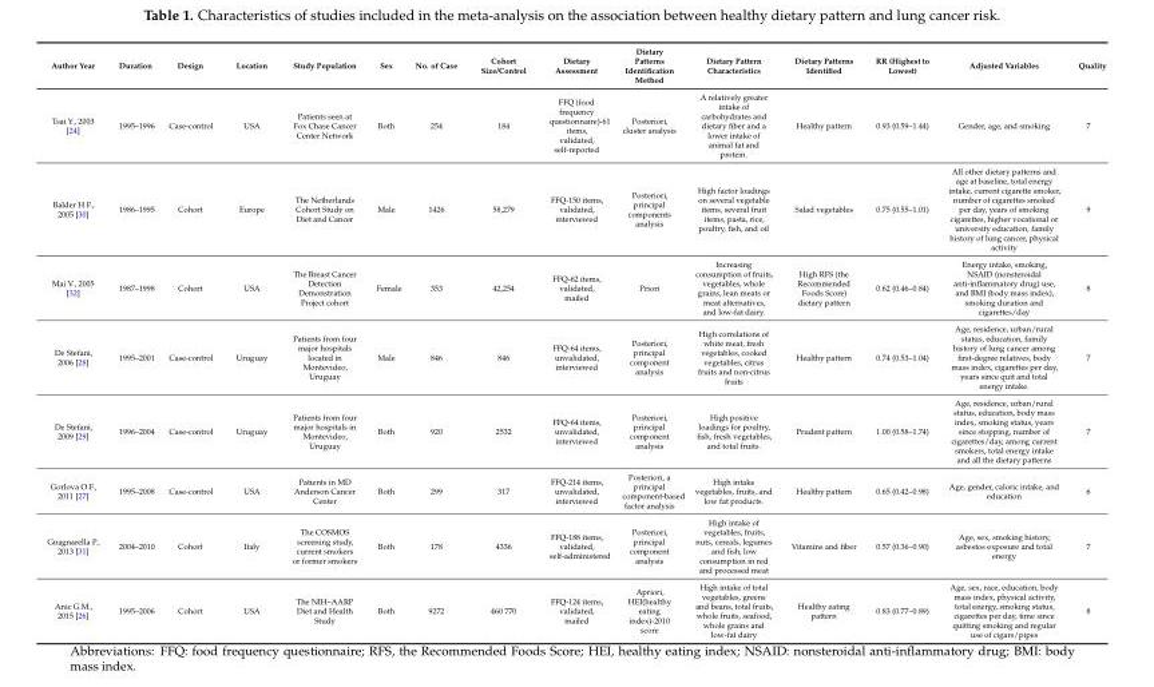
<table><thead><tr><td>Author Year</td><td>Duration</td><td>Design</td><td>Location</td><td>Study Population</td><td>Sex</td><td>No. of Case</td><td>Cohort Size/Control</td><td>Dietary Assessment</td><td>Dietary Patterns Identification Method</td><td>Dietary Pattern Characteristics</td><td>Dietary Patterns Identified</td><td>RR (Highest to Lowest)</td><td>Adjusted Variables</td><td>Quality</td></tr></thead><tbody><tr><td>Tsai Y., 2003 [24]</td><td>1995–1996</td><td>Case-control</td><td>USA</td><td>Patients seen at Fox Chase Cancer Center Network</td><td>Both</td><td>254</td><td>184</td><td>FFQ (food frequency questionnaire)-61 items, validated, self-reported</td><td>Posteriori, cluster analysis</td><td>A relatively greater intake of carbohydrates and dietary fiber and a lower intake of animal fat and protein.</td><td>Healthy pattern</td><td>0.93 (0.59–1.44)</td><td>Gender, age, and smoking</td><td>7</td></tr><tr><td>Balder H.F., 2005 [30]</td><td>1986–1995</td><td>Cohort</td><td>Europe</td><td>The Netherlands Cohort Study on Diet and Cancer</td><td>Male</td><td>1426</td><td>58,279</td><td>FFQ-150 items, validated, interviewed</td><td>Posteriori, principal components analysis</td><td>High factor loadings on several vegetable items, several fruit items, pasta, rice, poultry, fish, and oil</td><td>Salad vegetables</td><td>0.75 (0.55–1.01)</td><td>All other dietary patterns and age at baseline, total energy intake, current cigarette smoker, number of cigarettes smoked per day, years of smoking cigarettes, higher vocational or university education, family history of lung cancer, physical activity</td><td>9</td></tr><tr><td>Mai V., 2005 [32]</td><td>1987–1998</td><td>Cohort</td><td>USA</td><td>The Breast Cancer Detection Demonstration Project cohort</td><td>Female</td><td>353</td><td>42,254</td><td>FFQ-62 items, validated, mailed</td><td>Priori</td><td>Increasing consumption of fruits, vegetables, whole grains, lean meats or meat alternatives, and low-fat dairy.</td><td>High RFS (the Recommended Foods Score) dietary pattern</td><td>0.62 (0.46–0.84)</td><td>Energy intake, smoking, NSAID (nonsteroidal anti-inflammatory drug) use, and BMI (body mass index), smoking duration and cigarettes/day</td><td>8</td></tr><tr><td>De Stefani, 2006 [28]</td><td>1995–2001</td><td>Case-control</td><td>Uruguay</td><td>Patients from four major hospitals located in Montevideo, Uruguay</td><td>Male</td><td>846</td><td>846</td><td>FFQ-64 items, unvalidated, interviewed</td><td>Posteriori, principal component analysis</td><td>High correlations of white meat, fresh vegetables, cooked vegetables, citrus fruits and non-citrus fruits</td><td>Healthy pattern</td><td>0.74 (0.53–1.04)</td><td>Age, residence, urban/rural status, education, family history of lung cancer among first-degree relatives, body mass index, cigarettes per day, years since quit and total energy intake.</td><td>7</td></tr><tr><td>De Stefani, 2009 [29]</td><td>1996–2004</td><td>Case-control</td><td>Uruguay</td><td>Patients from four major hospitals in Montevideo, Uruguay</td><td>Both</td><td>920</td><td>2532</td><td>FFQ-64 items, unvalidated, interviewed</td><td>Posteriori, principal component analysis</td><td>High positive loadings for poultry, fish, fresh vegetables, and total fruits.</td><td>Prudent pattern</td><td>1.00 (0.58–1.74)</td><td>Age, residence, urban/rural status, education, body mass index, smoking status, years since stopping, number of cigarettes/day, among current smokers, total energy intake and all the dietary patterns</td><td>7</td></tr><tr><td>Gorlova O.F., 2011 [27]</td><td>1995–2008</td><td>Case-control</td><td>USA</td><td>Patients in MD Anderson Cancer Center</td><td>Both</td><td>299</td><td>317</td><td>FFQ-214 items, unvalidated, interviewed</td><td>Posteriori, a principal component-based factor analysis</td><td>High intake vegetables, fruits, and low fat products.</td><td>Healthy pattern</td><td>0.65 (0.42–0.98)</td><td>Age, gender, caloric intake, and education</td><td>6</td></tr><tr><td>Gnagnarella P., 2013 [31]</td><td>2004–2010</td><td>Cohort</td><td>Italy</td><td>The COSMOS screening study, current smokers or former smokers</td><td>Both</td><td>178</td><td>4336</td><td>FFQ-188 items, validated, self-administered</td><td>Posteriori, principal component analysis</td><td>High intake of vegetables, fruits, nuts, cereals, legumes and fish; low consumption in red and processed meat</td><td>Vitamins and fiber</td><td>0.57 (0.36–0.90)</td><td>Age, sex, smoking history, asbestos exposure and total energy</td><td>7</td></tr><tr><td>Anic G.M., 2015 [26]</td><td>1995–2006</td><td>Cohort</td><td>USA</td><td>The NIH–AARP Diet and Health Study</td><td>Both</td><td>9272</td><td>460 770</td><td>FFQ-124 items, validated, mailed</td><td>Apriori, HEI(healthy eating index)-2010 score</td><td>High intake of total vegetables, greens and beans, total fruits, whole fruits, seafood, whole grains and low-fat dairy</td><td>Healthy eating pattern</td><td>0.83 (0.77–0.89)</td><td>Age, sex, race, education, body mass index, physical activity, total energy, smoking status, cigarettes per day, time since quitting smoking and regular use of cigars/pipes</td><td>8</td></tr></tbody></table>